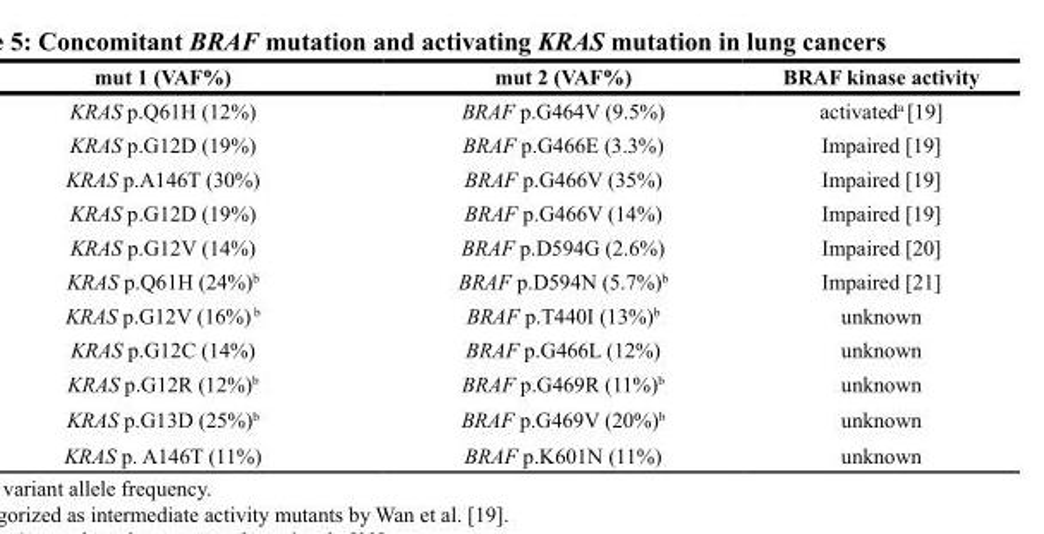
<table><thead><tr><td>mut 1 (VAF%)</td><td>mut 2 (VAF%)</td><td>BRAF kinase activity</td></tr></thead><tbody><tr><td>KRAS p.Q61H (12%)</td><td>BRAF p.G464V (9.5%)</td><td>activated<sup>a</sup> [19]</td></tr><tr><td>KRAS p.G12D (19%)</td><td>BRAF p.G466E (3.3%)</td><td>Impaired [19]</td></tr><tr><td>KRAS p.A146T (30%)</td><td>BRAF p.G466V (35%)</td><td>Impaired [19]</td></tr><tr><td>KRAS p.G12D (19%)</td><td>BRAF p.G466V (14%)</td><td>Impaired [19]</td></tr><tr><td>KRAS p.G12V (14%)</td><td>BRAF p.D594G (2.6%)</td><td>Impaired [20]</td></tr><tr><td>KRAS p.Q61H (24%)<sup>b</sup></td><td>BRAF p.D594N (5.7%)<sup>b</sup></td><td>Impaired [21]</td></tr><tr><td>KRAS p.G12V (16%) <sup>b</sup></td><td>BRAF p.T440I (13%)<sup>b</sup></td><td>unknown</td></tr><tr><td>KRAS p.G12C (14%)</td><td>BRAF p.G466L (12%)</td><td>unknown</td></tr><tr><td>KRAS p.G12R (12%)<sup>b</sup></td><td>BRAF p.G469R (11%)<sup>b</sup></td><td>unknown</td></tr><tr><td>KRAS p.G13D (25%)<sup>b</sup></td><td>BRAF p.G469V (20%)<sup>b</sup></td><td>unknown</td></tr><tr><td>KRAS p. A146T (11%)</td><td>BRAF p.K601N (11%)</td><td>unknown</td></tr></tbody></table>